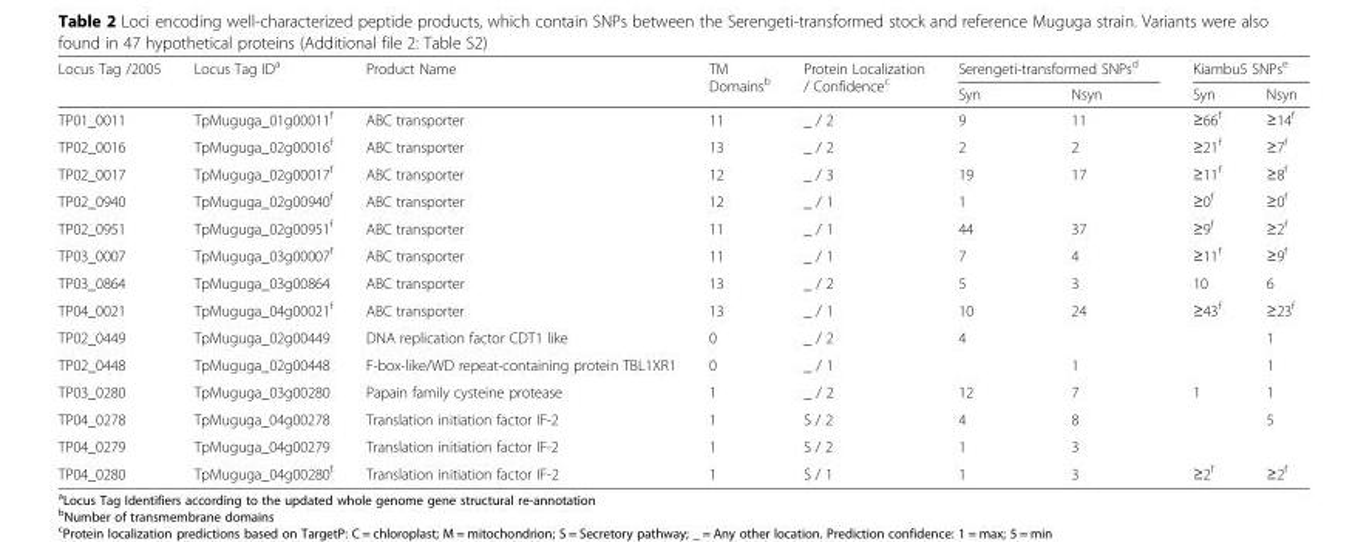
<table><thead><tr><td rowspan="2">Locus Tag /2005</td><td rowspan="2">Locus Tag ID<sup>a</sup></td><td rowspan="2">Product Name</td><td rowspan="2">TM Domains<sup>b</sup></td><td rowspan="2">Protein Localization / Confidence<sup>c</sup></td><td colspan="2">Serengeti-transformed SNPs<sup>d</sup></td><td colspan="2">Kiambu5 SNPs<sup>e</sup></td></tr><tr><td>Syn</td><td>Nsyn</td><td>Syn</td><td>Nsyn</td></tr></thead><tbody><tr><td>TP01_0011</td><td>TpMuguga_01g00011<sup>f</sup></td><td>ABC transporter</td><td>11</td><td>_ / 2</td><td>9</td><td>11</td><td>≥66<sup>f</sup></td><td>≥14<sup>f</sup></td></tr><tr><td>TP02_0016</td><td>TpMuguga_02g00016<sup>f</sup></td><td>ABC transporter</td><td>13</td><td>_ / 2</td><td>2</td><td>2</td><td>≥21<sup>f</sup></td><td>≥7<sup>f</sup></td></tr><tr><td>TP02_0017</td><td>TpMuguga_02g00017<sup>f</sup></td><td>ABC transporter</td><td>12</td><td>_ / 3</td><td>19</td><td>17</td><td>≥11<sup>f</sup></td><td>≥8<sup>f</sup></td></tr><tr><td>TP02_0940</td><td>TpMuguga_02g00940<sup>f</sup></td><td>ABC transporter</td><td>12</td><td>_ / 1</td><td>1</td><td></td><td>≥0<sup>f</sup></td><td>≥0<sup>f</sup></td></tr><tr><td>TP02_0951</td><td>TpMuguga_02g00951<sup>f</sup></td><td>ABC transporter</td><td>11</td><td>_ / 1</td><td>44</td><td>37</td><td>≥9<sup>f</sup></td><td>≥2<sup>f</sup></td></tr><tr><td>TP03_0007</td><td>TpMuguga_03g00007<sup>f</sup></td><td>ABC transporter</td><td>11</td><td>_ / 1</td><td>7</td><td>4</td><td>≥11<sup>f</sup></td><td>≥9<sup>f</sup></td></tr><tr><td>TP03_0864</td><td>TpMuguga_03g00864</td><td>ABC transporter</td><td>13</td><td>_ / 2</td><td>5</td><td>3</td><td>10</td><td>6</td></tr><tr><td>TP04_0021</td><td>TpMuguga_04g00021<sup>f</sup></td><td>ABC transporter</td><td>13</td><td>_ / 1</td><td>10</td><td>24</td><td>≥43<sup>f</sup></td><td>≥23<sup>f</sup></td></tr><tr><td>TP02_0449</td><td>TpMuguga_02g00449</td><td>DNA replication factor CDT1 like</td><td>0</td><td>_ / 2</td><td>4</td><td></td><td></td><td>1</td></tr><tr><td>TP02_0448</td><td>TpMuguga_02g00448</td><td>F-box-like/WD repeat-containing protein TBL1XR1</td><td>0</td><td>_ / 1</td><td></td><td>1</td><td></td><td>1</td></tr><tr><td>TP03_0280</td><td>TpMuguga_03g00280</td><td>Papain family cysteine protease</td><td>1</td><td>_ / 2</td><td>12</td><td>7</td><td>1</td><td>1</td></tr><tr><td>TP04_0278</td><td>TpMuguga_04g00278</td><td>Translation initiation factor IF-2</td><td>1</td><td>S / 2</td><td>4</td><td>8</td><td></td><td>5</td></tr><tr><td>TP04_0279</td><td>TpMuguga_04g00279</td><td>Translation initiation factor IF-2</td><td>1</td><td>S / 2</td><td>1</td><td>3</td><td></td><td></td></tr><tr><td>TP04_0280</td><td>TpMuguga_04g00280<sup>f</sup></td><td>Translation initiation factor IF-2</td><td>1</td><td>S / 1</td><td>1</td><td>3</td><td>≥2<sup>f</sup></td><td>≥2<sup>f</sup></td></tr></tbody></table>